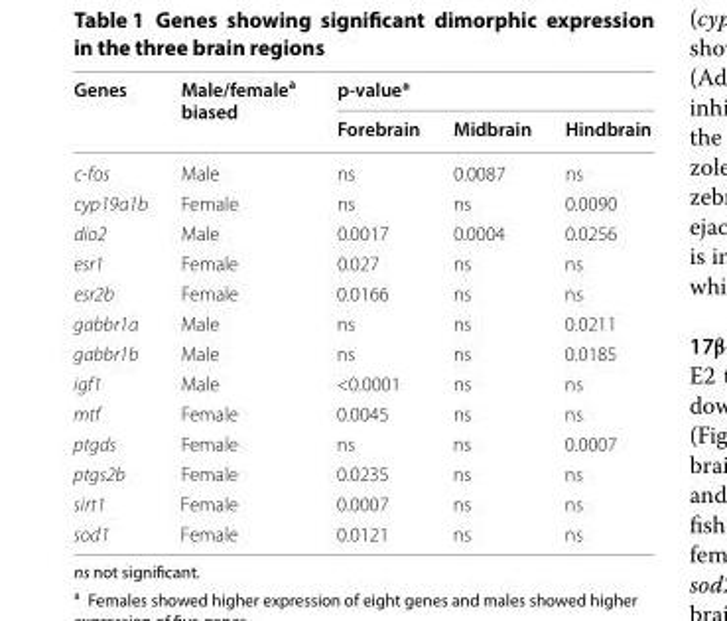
<table><thead><tr><td rowspan="2">Genes</td><td rowspan="2">Male/female<sup>a</sup> biased</td><td colspan="3">p‑value*</td></tr><tr><td>Forebrain</td><td>Midbrain</td><td>Hindbrain</td></tr></thead><tbody><tr><td>c‑fos</td><td>Male</td><td>ns</td><td>0.0087</td><td>ns</td></tr><tr><td>cyp19a1b</td><td>Female</td><td>ns</td><td>ns</td><td>0.0090</td></tr><tr><td>dio2</td><td>Male</td><td>0.0017</td><td>0.0004</td><td>0.0256</td></tr><tr><td>esr1</td><td>Female</td><td>0.027</td><td>ns</td><td>ns</td></tr><tr><td>esr2b</td><td>Female</td><td>0.0166</td><td>ns</td><td>ns</td></tr><tr><td>gabbr1a</td><td>Male</td><td>ns</td><td>ns</td><td>0.0211</td></tr><tr><td>gabbr1b</td><td>Male</td><td>ns</td><td>ns</td><td>0.0185</td></tr><tr><td>igf1</td><td>Male</td><td>&lt;0.0001</td><td>ns</td><td>ns</td></tr><tr><td>mtf</td><td>Female</td><td>0.0045</td><td>ns</td><td>ns</td></tr><tr><td>ptgds</td><td>Female</td><td>ns</td><td>ns</td><td>0.0007</td></tr><tr><td>ptgs2b</td><td>Female</td><td>0.0235</td><td>ns</td><td>ns</td></tr><tr><td>sirt1</td><td>Female</td><td>0.0007</td><td>ns</td><td>ns</td></tr><tr><td>sod1</td><td>Female</td><td>0.0121</td><td>ns</td><td>ns</td></tr></tbody></table>